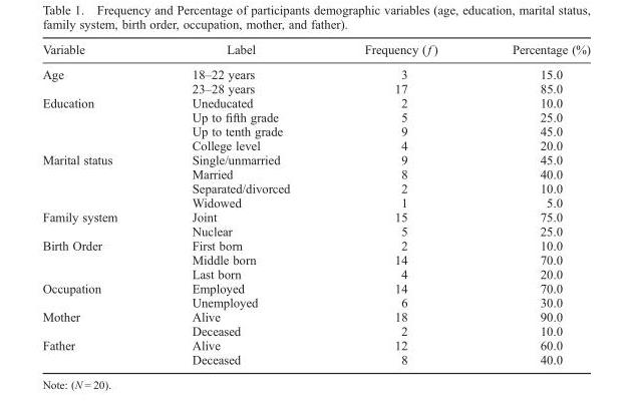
<table><thead><tr><td>Variable</td><td>Label</td><td>Frequency (f )</td><td>Percentage (%)</td></tr></thead><tbody><tr><td rowspan="2">Age</td><td>18–22 years</td><td>3</td><td>15.0</td></tr><tr><td>23–28 years</td><td>17</td><td>85.0</td></tr><tr><td rowspan="4">Education</td><td>Uneducated</td><td>2</td><td>10.0</td></tr><tr><td>Up to fifth grade</td><td>5</td><td>25.0</td></tr><tr><td>Up to tenth grade</td><td>9</td><td>45.0</td></tr><tr><td>College level</td><td>4</td><td>20.0</td></tr><tr><td rowspan="4">Marital status</td><td>Single/unmarried</td><td>9</td><td>45.0</td></tr><tr><td>Married</td><td>8</td><td>40.0</td></tr><tr><td>Separated/divorced</td><td>2</td><td>10.0</td></tr><tr><td>Widowed</td><td>1</td><td>5.0</td></tr><tr><td rowspan="2">Family system</td><td>Joint</td><td>15</td><td>75.0</td></tr><tr><td>Nuclear</td><td>5</td><td>25.0</td></tr><tr><td rowspan="3">Birth Order</td><td>First born</td><td>2</td><td>10.0</td></tr><tr><td>Middle born</td><td>14</td><td>70.0</td></tr><tr><td>Last born</td><td>4</td><td>20.0</td></tr><tr><td rowspan="2">Occupation</td><td>Employed</td><td>14</td><td>70.0</td></tr><tr><td>Unemployed</td><td>6</td><td>30.0</td></tr><tr><td rowspan="2">Mother</td><td>Alive</td><td>18</td><td>90.0</td></tr><tr><td>Deceased</td><td>2</td><td>10.0</td></tr><tr><td rowspan="2">Father</td><td>Alive</td><td>12</td><td>60.0</td></tr><tr><td>Deceased</td><td>8</td><td>40.0</td></tr></tbody></table>